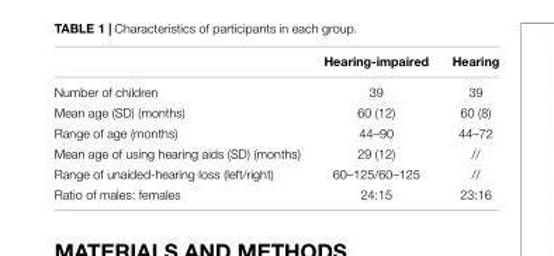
<table><thead><tr><td></td><td>Hearing-impaired</td><td>Hearing</td></tr></thead><tbody><tr><td>Number of children</td><td>39</td><td>39</td></tr><tr><td>Mean age (SD) (months)</td><td>60 (12)</td><td>60 (8)</td></tr><tr><td>Range of age (months)</td><td>44–90</td><td>44–72</td></tr><tr><td>Mean age of using hearing aids (SD) (months)</td><td>29 (12)</td><td>//</td></tr><tr><td>Range of unaided-hearing loss (left/right)</td><td>60–125/60–125</td><td>//</td></tr><tr><td>Ratio of males: females</td><td>24:15</td><td>23:16</td></tr></tbody></table>